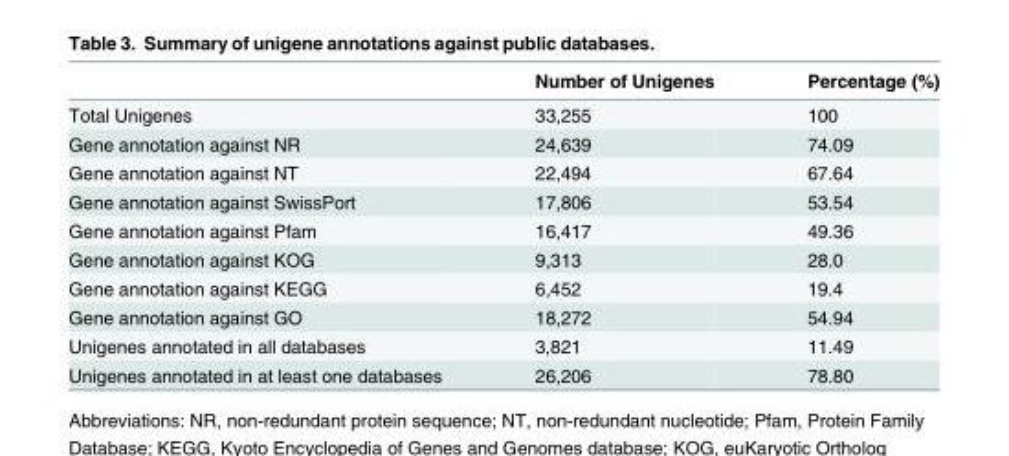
<table><thead><tr><td></td><td>Number of Unigenes</td><td>Percentage (%)</td></tr></thead><tbody><tr><td>Total Unigenes</td><td>33,255</td><td>100</td></tr><tr><td>Gene annotation against NR</td><td>24,639</td><td>74.09</td></tr><tr><td>Gene annotation against NT</td><td>22,494</td><td>67.64</td></tr><tr><td>Gene annotation against SwissPort</td><td>17,806</td><td>53.54</td></tr><tr><td>Gene annotation against Pfam</td><td>16,417</td><td>49.36</td></tr><tr><td>Gene annotation against KOG</td><td>9,313</td><td>28.0</td></tr><tr><td>Gene annotation against KEGG</td><td>6,452</td><td>19.4</td></tr><tr><td>Gene annotation against GO</td><td>18,272</td><td>54.94</td></tr><tr><td>Unigenes annotated in all databases</td><td>3,821</td><td>11.49</td></tr><tr><td>Unigenes annotated in at least one databases</td><td>26,206</td><td>78.80</td></tr></tbody></table>